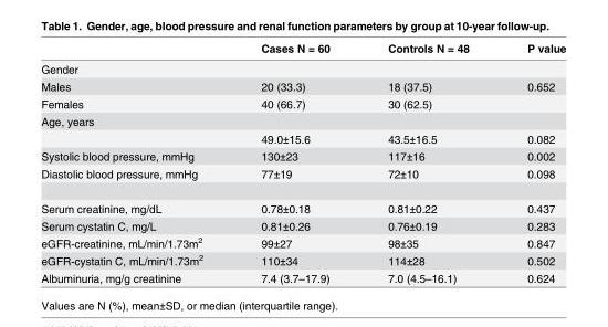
<table><thead><tr><td></td><td>Cases N = 60</td><td>Controls N = 48</td><td>P value</td></tr></thead><tbody><tr><td colspan="4">Gender</td></tr><tr><td>Males</td><td>20 (33.3)</td><td>18 (37.5)</td><td>0.652</td></tr><tr><td>Females</td><td>40 (66.7)</td><td>30 (62.5)</td><td></td></tr><tr><td colspan="4">Age, years</td></tr><tr><td></td><td>49.0±15.6</td><td>43.5±16.5</td><td>0.082</td></tr><tr><td>Systolic blood pressure, mmHg</td><td>130±23</td><td>117±16</td><td>0.002</td></tr><tr><td>Diastolic blood pressure, mmHg</td><td>77±19</td><td>72±10</td><td>0.098</td></tr><tr><td>Serum creatinine, mg/dL</td><td>0.78±0.18</td><td>0.81±0.22</td><td>0.437</td></tr><tr><td>Serum cystatin C, mg/L</td><td>0.81±0.26</td><td>0.76±0.19</td><td>0.283</td></tr><tr><td>eGFR-creatinine, mL/min/1.73m<sup>2</sup></td><td>99±27</td><td>98±35</td><td>0.847</td></tr><tr><td>eGFR-cystatin C, mL/min/1.73m<sup>2</sup></td><td>110±34</td><td>114±28</td><td>0.502</td></tr><tr><td>Albuminuria, mg/g creatinine</td><td>7.4 (3.7–17.9)</td><td>7.0 (4.5–16.1)</td><td>0.624</td></tr></tbody></table>